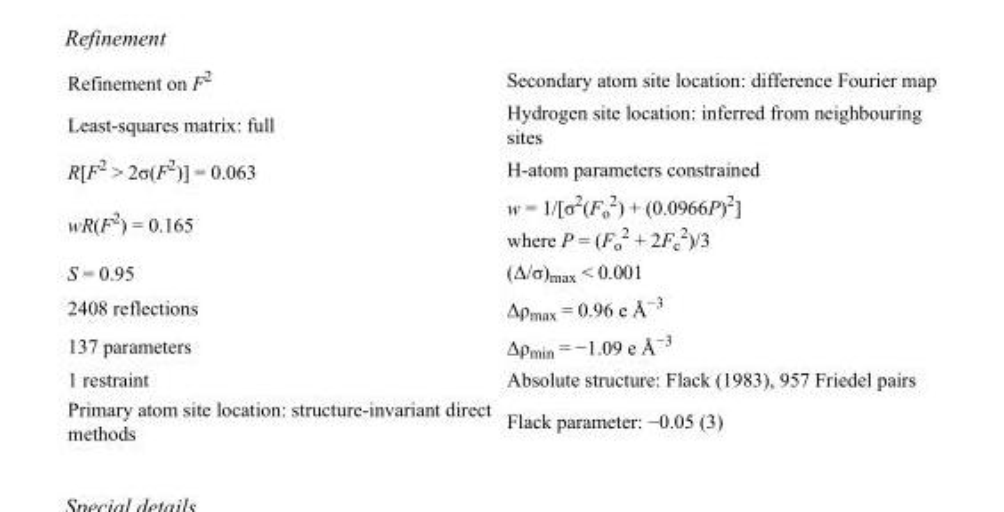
<table><tbody><tr><td>Refinement on F<sup>2</sup></td><td>Secondary atom site location: difference Fourier map</td></tr><tr><td>Least-squares matrix: full</td><td>Hydrogen site location: inferred from neighbouring sites</td></tr><tr><td>R[F<sup>2</sup> &gt; 2σ(F<sup>2</sup>)] = 0.063</td><td>H-atom parameters constrained</td></tr><tr><td>wR(F<sup>2</sup>) = 0.165</td><td>w = 1/[σ<sup>2</sup>(F<sub>o</sub> <sup>2</sup>) + (0.0966P)<sup>2</sup>] where P = (F<sub>o</sub> <sup>2</sup> + 2F<sub>c</sub> <sup>2</sup>)/3</td></tr><tr><td>S = 0.95</td><td>(Δ/σ)<sub>max</sub> &lt; 0.001</td></tr><tr><td>2408 reflections</td><td>Δρ<sub>max</sub> = 0.96 e Å<sup>−3</sup></td></tr><tr><td>137 parameters</td><td>Δρ<sub>min</sub> = −1.09 e Å<sup>−3</sup></td></tr><tr><td>1 restraint</td><td>Absolute structure: Flack (1983), 957 Friedel pairs</td></tr><tr><td>Primary atom site location: structure-invariant direct methods</td><td>Flack parameter: −0.05 (3)</td></tr></tbody></table>